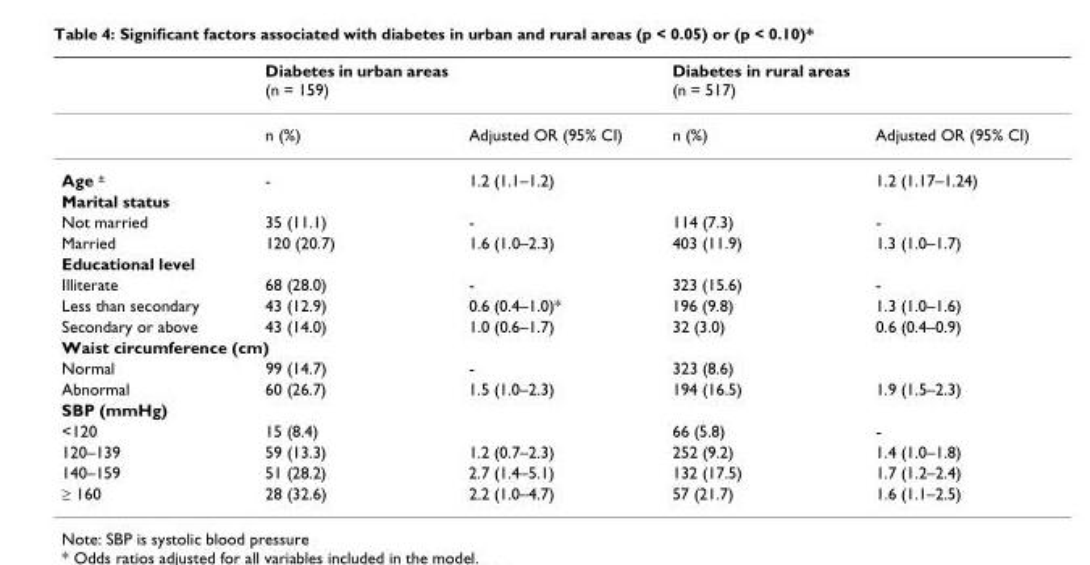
<table><thead><tr><td></td><td>Diabetes in urban areas (n = 159)</td><td></td><td>Diabetes in rural areas (n = 517)</td><td></td></tr></thead><tbody><tr><td></td><td>n (%)</td><td>Adjusted OR (95% CI)</td><td>n (%)</td><td>Adjusted OR (95% CI)</td></tr><tr><td>Age <sup>±</sup></td><td>-</td><td>1.2 (1.1–1.2)</td><td></td><td>1.2 (1.17–1.24)</td></tr><tr><td colspan="5">Marital status</td></tr><tr><td>Not married</td><td>35 (11.1)</td><td>-</td><td>114 (7.3)</td><td>-</td></tr><tr><td>Married</td><td>120 (20.7)</td><td>1.6 (1.0–2.3)</td><td>403 (11.9)</td><td>1.3 (1.0–1.7)</td></tr><tr><td colspan="5">Educational level</td></tr><tr><td>Illiterate</td><td>68 (28.0)</td><td>-</td><td>323 (15.6)</td><td>-</td></tr><tr><td>Less than secondary</td><td>43 (12.9)</td><td>0.6 (0.4–1.0)*</td><td>196 (9.8)</td><td>1.3 (1.0–1.6)</td></tr><tr><td>Secondary or above</td><td>43 (14.0)</td><td>1.0 (0.6–1.7)</td><td>32 (3.0)</td><td>0.6 (0.4–0.9)</td></tr><tr><td colspan="5">Waist circumference (cm)</td></tr><tr><td>Normal</td><td>99 (14.7)</td><td>-</td><td>323 (8.6)</td><td></td></tr><tr><td>Abnormal</td><td>60 (26.7)</td><td>1.5 (1.0–2.3)</td><td>194 (16.5)</td><td>1.9 (1.5–2.3)</td></tr><tr><td colspan="5">SBP (mmHg)</td></tr><tr><td>&lt;120</td><td>15 (8.4)</td><td></td><td>66 (5.8)</td><td>-</td></tr><tr><td>120–139</td><td>59 (13.3)</td><td>1.2 (0.7–2.3)</td><td>252 (9.2)</td><td>1.4 (1.0–1.8)</td></tr><tr><td>140–159</td><td>51 (28.2)</td><td>2.7 (1.4–5.1)</td><td>132 (17.5)</td><td>1.7 (1.2–2.4)</td></tr><tr><td>≥ 160</td><td>28 (32.6)</td><td>2.2 (1.0–4.7)</td><td>57 (21.7)</td><td>1.6 (1.1–2.5)</td></tr></tbody></table>